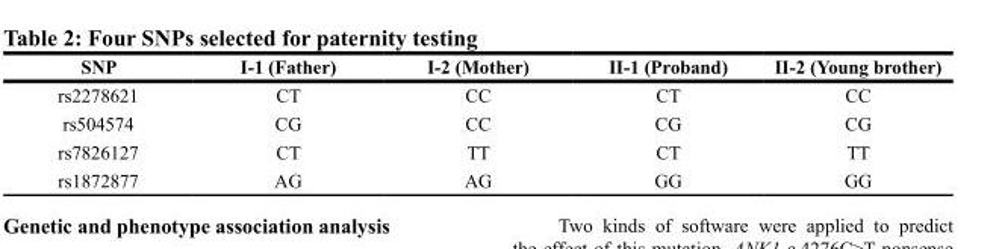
<table><thead><tr><td>SNP</td><td>I-1 (Father)</td><td>I-2 (Mother)</td><td>II-1 (Proband)</td><td>II-2 (Young brother)</td></tr></thead><tbody><tr><td>rs2278621</td><td>CT</td><td>CC</td><td>CT</td><td>CC</td></tr><tr><td>rs504574</td><td>CG</td><td>CC</td><td>CG</td><td>CG</td></tr><tr><td>rs7826127</td><td>CT</td><td>TT</td><td>CT</td><td>TT</td></tr><tr><td>rs1872877</td><td>AG</td><td>AG</td><td>GG</td><td>GG</td></tr></tbody></table>